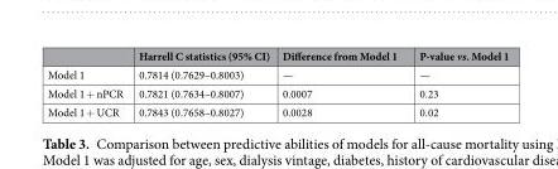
<table><thead><tr><td></td><td>Harrell C statistics (95% CI)</td><td>Difference from Model 1</td><td>P-value vs. Model 1</td></tr></thead><tbody><tr><td>Model 1</td><td>0.7814 (0.7629–0.8003)</td><td>—</td><td>—</td></tr><tr><td>Model 1 + nPCR</td><td>0.7821 (0.7634–0.8007)</td><td>0.0007</td><td>0.23</td></tr><tr><td>Model 1 + UCR</td><td>0.7843 (0.7658–0.8027)</td><td>0.0028</td><td>0.02</td></tr></tbody></table>